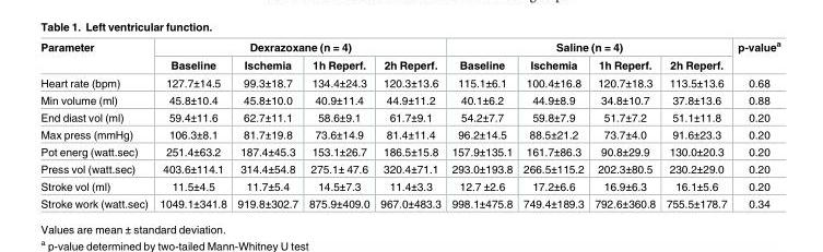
<table><thead><tr><td rowspan="2">Parameter</td><td colspan="4">Dexrazoxane (n = 4)</td><td colspan="4">Saline (n = 4)</td><td rowspan="2">p-value<sup>a</sup></td></tr><tr><td>Baseline</td><td>Ischemia</td><td>1h Reperf.</td><td>2h Reperf.</td><td>Baseline</td><td>Ischemia</td><td>1h Reperf.</td><td>2h Reperf.</td></tr></thead><tbody><tr><td>Heart rate (bpm)</td><td>127.7±14.5</td><td>99.3±18.7</td><td>134.4±24.3</td><td>120.3±13.6</td><td>115.1±6.1</td><td>100.4±16.8</td><td>120.7±18.3</td><td>113.5±13.6</td><td>0.68</td></tr><tr><td>Min volume (ml)</td><td>45.8±10.4</td><td>45.8±10.0</td><td>40.9±11.4</td><td>44.9±11.2</td><td>40.1±6.2</td><td>44.9±8.9</td><td>34.8±10.7</td><td>37.8±13.6</td><td>0.88</td></tr><tr><td>End diast vol (ml)</td><td>59.4±11.6</td><td>62.7±11.1</td><td>58.6±9.1</td><td>61.7±9.1</td><td>54.2±7.7</td><td>59.8±7.9</td><td>51.7±7.2</td><td>51.1±11.8</td><td>0.20</td></tr><tr><td>Max press (mmHg)</td><td>106.3±8.1</td><td>81.7±19.8</td><td>73.6±14.9</td><td>81.4±11.4</td><td>96.2±14.5</td><td>88.5±21.2</td><td>73.7±4.0</td><td>91.6±23.3</td><td>0.20</td></tr><tr><td>Pot energ (watt.sec)</td><td>251.4±63.2</td><td>187.4±45.3</td><td>153.1±26.7</td><td>186.5±15.8</td><td>157.9±135.1</td><td>161.7±86.3</td><td>90.8±29.9</td><td>130.0±20.3</td><td>0.20</td></tr><tr><td>Press vol (watt.sec)</td><td>403.6±114.1</td><td>314.4±54.8</td><td>275.1± 47.6</td><td>320.4±71.1</td><td>293.0±193.8</td><td>266.5±115.2</td><td>202.3±80.5</td><td>230.2±29.0</td><td>0.20</td></tr><tr><td>Stroke vol (ml)</td><td>11.5±4.5</td><td>11.7±5.4</td><td>14.5±7.3</td><td>11.4±3.3</td><td>12.7 ±2.6</td><td>17.2±6.6</td><td>16.9±6.3</td><td>16.1±5.6</td><td>0.20</td></tr><tr><td>Stroke work (watt.sec)</td><td>1049.1±341.8</td><td>919.8±302.7</td><td>875.9±409.0</td><td>967.0±483.3</td><td>998.1±475.8</td><td>749.4±189.3</td><td>792.6±360.8</td><td>755.5±178.7</td><td>0.34</td></tr></tbody></table>